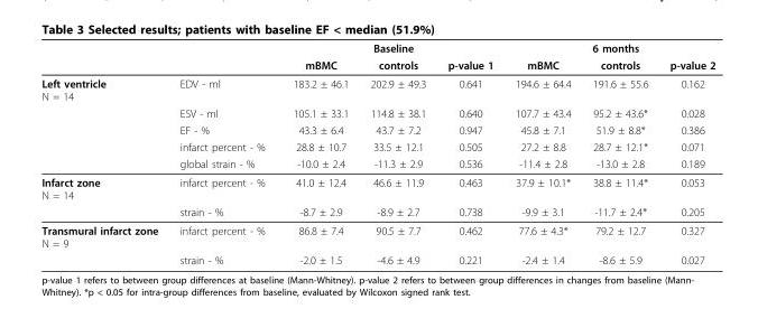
<table><thead><tr><td rowspan="2"></td><td rowspan="2"></td><td colspan="3">Baseline</td><td colspan="3">6 months</td></tr><tr><td>mBMC</td><td>controls</td><td>p-value 1</td><td>mBMC</td><td>controls</td><td>p-value 2</td></tr></thead><tbody><tr><td rowspan="5">Left ventricle N = 14</td><td>EDV - ml</td><td>183.2 ± 46.1</td><td>202.9 ± 49.3</td><td>0.641</td><td>194.6 ± 64.4</td><td>191.6 ± 55.6</td><td>0.162</td></tr><tr><td>ESV - ml</td><td>105.1 ± 33.1</td><td>114.8 ± 38.1</td><td>0.640</td><td>107.7 ± 43.4</td><td>95.2 ± 43.6*</td><td>0.028</td></tr><tr><td>EF - %</td><td>43.3 ± 6.4</td><td>43.7 ± 7.2</td><td>0.947</td><td>45.8 ± 7.1</td><td>51.9 ± 8.8*</td><td>0.386</td></tr><tr><td>infarct percent - %</td><td>28.8 ± 10.7</td><td>33.5 ± 12.1</td><td>0.505</td><td>27.2 ± 8.8</td><td>28.7 ± 12.1*</td><td>0.071</td></tr><tr><td>global strain - %</td><td>-10.0 ± 2.4</td><td>-11.3 ± 2.9</td><td>0.536</td><td>-11.4 ± 2.8</td><td>-13.0 ± 2.8</td><td>0.189</td></tr><tr><td rowspan="2">Infarct zone N = 14</td><td>infarct percent - %</td><td>41.0 ± 12.4</td><td>46.6 ± 11.9</td><td>0.463</td><td>37.9 ± 10.1*</td><td>38.8 ± 11.4*</td><td>0.053</td></tr><tr><td>strain - %</td><td>-8.7 ± 2.9</td><td>-8.9 ± 2.7</td><td>0.738</td><td>-9.9 ± 3.1</td><td>-11.7 ± 2.4*</td><td>0.205</td></tr><tr><td rowspan="2">Transmural infarct zone N = 9</td><td>infarct percent - %</td><td>86.8 ± 7.4</td><td>90.5 ± 7.7</td><td>0.462</td><td>77.6 ± 4.3*</td><td>79.2 ± 12.7</td><td>0.327</td></tr><tr><td>strain - %</td><td>-2.0 ± 1.5</td><td>-4.6 ± 4.9</td><td>0.221</td><td>-2.4 ± 1.4</td><td>-8.6 ± 5.9</td><td>0.027</td></tr></tbody></table>